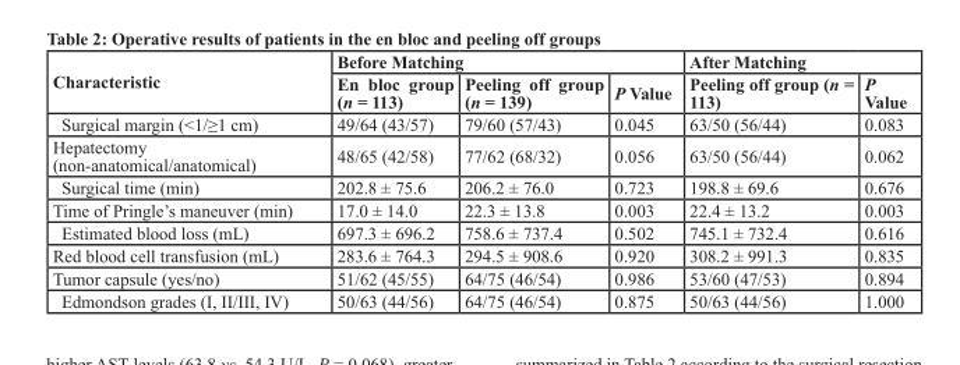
<table><thead><tr><td rowspan="2">Characteristic</td><td colspan="3">Before Matching</td><td colspan="2">After Matching</td></tr><tr><td>En bloc group (n = 113)</td><td>Peeling off group (n = 139)</td><td>P Value</td><td>Peeling off group (n = 113)</td><td>P Value</td></tr></thead><tbody><tr><td>Surgical margin (&lt;1/≥1 cm)</td><td>49/64 (43/57)</td><td>79/60 (57/43)</td><td>0.045</td><td>63/50 (56/44)</td><td>0.083</td></tr><tr><td>Hepatectomy (non-anatomical/anatomical)</td><td>48/65 (42/58)</td><td>77/62 (68/32)</td><td>0.056</td><td>63/50 (56/44)</td><td>0.062</td></tr><tr><td>Surgical time (min)</td><td>202.8 ± 75.6</td><td>206.2 ± 76.0</td><td>0.723</td><td>198.8 ± 69.6</td><td>0.676</td></tr><tr><td>Time of Pringle’s maneuver (min)</td><td>17.0 ± 14.0</td><td>22.3 ± 13.8</td><td>0.003</td><td>22.4 ± 13.2</td><td>0.003</td></tr><tr><td>Estimated blood loss (mL)</td><td>697.3 ± 696.2</td><td>758.6 ± 737.4</td><td>0.502</td><td>745.1 ± 732.4</td><td>0.616</td></tr><tr><td>Red blood cell transfusion (mL)</td><td>283.6 ± 764.3</td><td>294.5 ± 908.6</td><td>0.920</td><td>308.2 ± 991.3</td><td>0.835</td></tr><tr><td>Tumor capsule (yes/no)</td><td>51/62 (45/55)</td><td>64/75 (46/54)</td><td>0.986</td><td>53/60 (47/53)</td><td>0.894</td></tr><tr><td>Edmondson grades (I, II/III, IV)</td><td>50/63 (44/56)</td><td>64/75 (46/54)</td><td>0.875</td><td>50/63 (44/56)</td><td>1.000</td></tr></tbody></table>